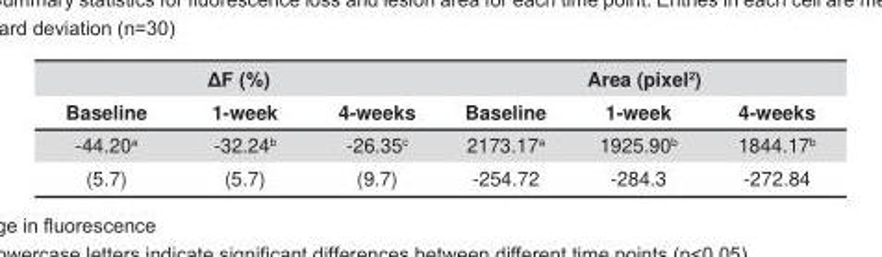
<table><thead><tr><td colspan="3">������</td><td colspan="3">Area (pixel<sup>2</sup>)</td></tr><tr><td>Baseline</td><td>1-week</td><td>4-weeks</td><td>Baseline</td><td>1-week</td><td>4-weeks</td></tr></thead><tbody><tr><td>-44.20<sup>a</sup></td><td>-32.24<sup>b</sup></td><td>-26.35<sup>c</sup></td><td>2173.17<sup>a</sup></td><td>1925.90<sup>b</sup></td><td>1844.17<sup>b</sup></td></tr><tr><td>(5.7)</td><td>(5.7)</td><td>(9.7)</td><td>-254.72</td><td>-284.3</td><td>-272.84</td></tr></tbody></table>